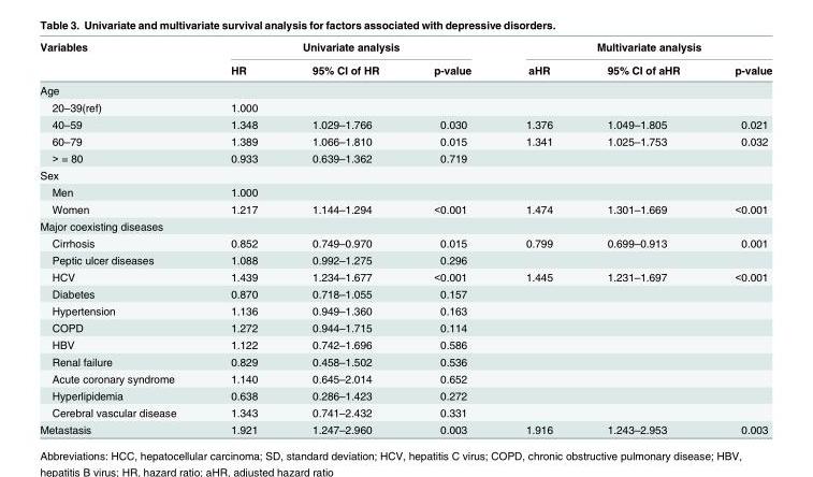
<table><thead><tr><td rowspan="2">Variables</td><td colspan="3">Univariate analysis</td><td colspan="3">Multivariate analysis</td></tr><tr><td>HR</td><td>95% CI of HR</td><td>p-value</td><td>aHR</td><td>95% CI of aHR</td><td>p-value</td></tr></thead><tbody><tr><td colspan="7">Age</td></tr><tr><td>20–39(ref)</td><td>1.000</td><td></td><td></td><td></td><td></td><td></td></tr><tr><td>40–59</td><td>1.348</td><td>1.029–1.766</td><td>0.030</td><td>1.376</td><td>1.049–1.805</td><td>0.021</td></tr><tr><td>60–79</td><td>1.389</td><td>1.066–1.810</td><td>0.015</td><td>1.341</td><td>1.025–1.753</td><td>0.032</td></tr><tr><td>&gt; = 80</td><td>0.933</td><td>0.639–1.362</td><td>0.719</td><td></td><td></td><td></td></tr><tr><td colspan="7">Sex</td></tr><tr><td>Men</td><td>1.000</td><td></td><td></td><td></td><td></td><td></td></tr><tr><td>Women</td><td>1.217</td><td>1.144–1.294</td><td>&lt;0.001</td><td>1.474</td><td>1.301–1.669</td><td>&lt;0.001</td></tr><tr><td colspan="7">Major coexisting diseases</td></tr><tr><td>Cirrhosis</td><td>0.852</td><td>0.749–0.970</td><td>0.015</td><td>0.799</td><td>0.699–0.913</td><td>0.001</td></tr><tr><td>Peptic ulcer diseases</td><td>1.088</td><td>0.992–1.275</td><td>0.296</td><td></td><td></td><td></td></tr><tr><td>HCV</td><td>1.439</td><td>1.234–1.677</td><td>&lt;0.001</td><td>1.445</td><td>1.231–1.697</td><td>&lt;0.001</td></tr><tr><td>Diabetes</td><td>0.870</td><td>0.718–1.055</td><td>0.157</td><td></td><td></td><td></td></tr><tr><td>Hypertension</td><td>1.136</td><td>0.949–1.360</td><td>0.163</td><td></td><td></td><td></td></tr><tr><td>COPD</td><td>1.272</td><td>0.944–1.715</td><td>0.114</td><td></td><td></td><td></td></tr><tr><td>HBV</td><td>1.122</td><td>0.742–1.696</td><td>0.586</td><td></td><td></td><td></td></tr><tr><td>Renal failure</td><td>0.829</td><td>0.458–1.502</td><td>0.536</td><td></td><td></td><td></td></tr><tr><td>Acute coronary syndrome</td><td>1.140</td><td>0.645–2.014</td><td>0.652</td><td></td><td></td><td></td></tr><tr><td>Hyperlipidemia</td><td>0.638</td><td>0.286–1.423</td><td>0.272</td><td></td><td></td><td></td></tr><tr><td>Cerebral vascular disease</td><td>1.343</td><td>0.741–2.432</td><td>0.331</td><td></td><td></td><td></td></tr><tr><td>Metastasis</td><td>1.921</td><td>1.247–2.960</td><td>0.003</td><td>1.916</td><td>1.243–2.953</td><td>0.003</td></tr></tbody></table>